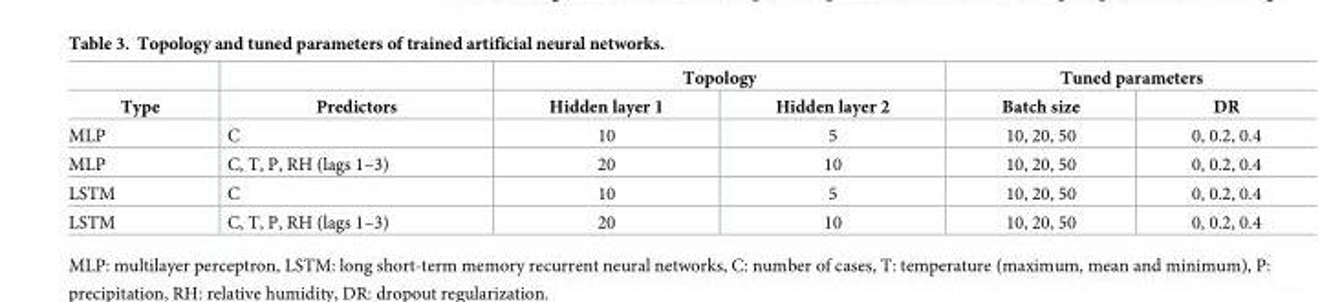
<table><thead><tr><td rowspan="2">Type</td><td rowspan="2">Predictors</td><td colspan="2">Topology</td><td colspan="2">Tuned parameters</td></tr><tr><td>Hidden layer 1</td><td>Hidden layer 2</td><td>Batch size</td><td>DR</td></tr></thead><tbody><tr><td>MLP</td><td>C</td><td>10</td><td>5</td><td>10, 20, 50</td><td>0, 0.2, 0.4</td></tr><tr><td>MLP</td><td>C, T, P, RH (lags 1–3)</td><td>20</td><td>10</td><td>10, 20, 50</td><td>0, 0.2, 0.4</td></tr><tr><td>LSTM</td><td>C</td><td>10</td><td>5</td><td>10, 20, 50</td><td>0, 0.2, 0.4</td></tr><tr><td>LSTM</td><td>C, T, P, RH (lags 1–3)</td><td>20</td><td>10</td><td>10, 20, 50</td><td>0, 0.2, 0.4</td></tr></tbody></table>